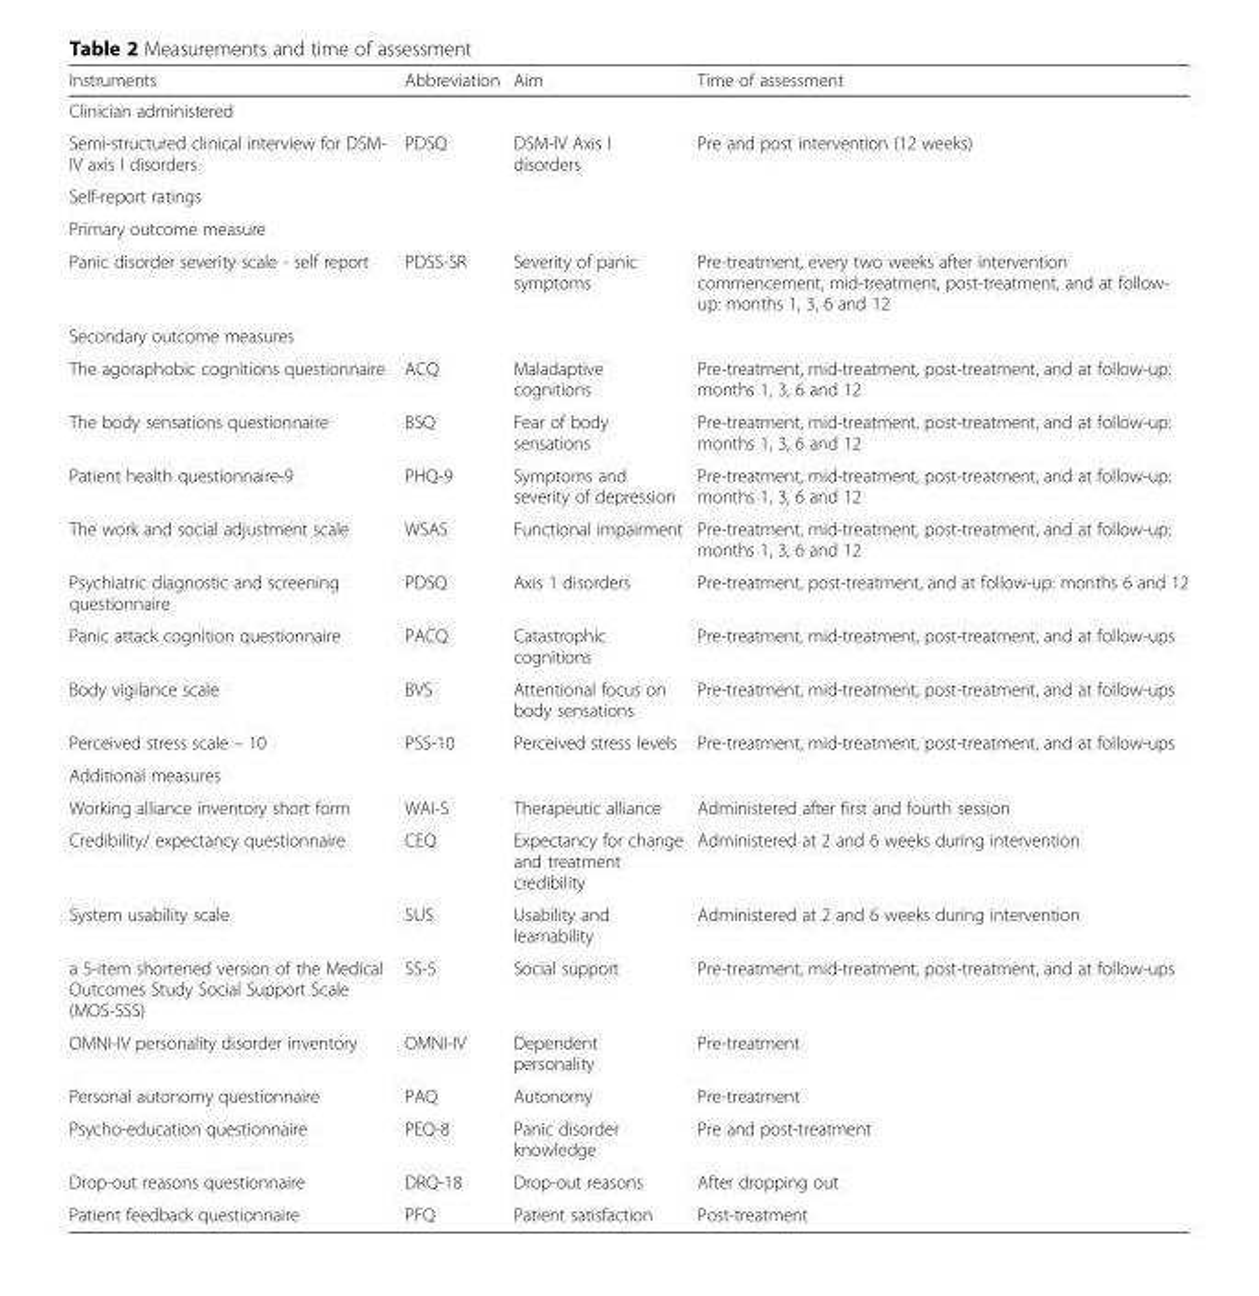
<table><thead><tr><td>Instruments</td><td>Abbreviation</td><td>Aim</td><td>Time of assessment</td></tr></thead><tbody><tr><td colspan="4">Clinician administered</td></tr><tr><td>Semi-structured clinical interview for DSM- IV axis I disorders</td><td>PDSQ</td><td>DSM-IV Axis I disorders</td><td>Pre and post intervention (12 weeks)</td></tr><tr><td colspan="4">Self-report ratings</td></tr><tr><td colspan="4">Primary outcome measure</td></tr><tr><td>Panic disorder severity scale - self report</td><td>PDSS-SR</td><td>Severity of panic symptoms</td><td>Pre-treatment, every two weeks after intervention commencement, mid-treatment, post-treatment, and at follow- up: months 1, 3, 6 and 12</td></tr><tr><td colspan="4">Secondary outcome measures</td></tr><tr><td>The agoraphobic cognitions questionnaire</td><td>ACQ</td><td>Maladaptive cognitions</td><td>Pre-treatment, mid-treatment, post-treatment, and at follow-up: months 1, 3, 6 and 12</td></tr><tr><td>The body sensations questionnaire</td><td>BSQ</td><td>Fear of body sensations</td><td>Pre-treatment, mid-treatment, post-treatment, and at follow-up: months 1, 3, 6 and 12</td></tr><tr><td>Patient health questionnaire-9</td><td>PHQ-9</td><td>Symptoms and severity of depression</td><td>Pre-treatment, mid-treatment, post-treatment, and at follow-up: months 1, 3, 6 and 12</td></tr><tr><td>The work and social adjustment scale</td><td>WSAS</td><td>Functional impairment</td><td>Pre-treatment, mid-treatment, post-treatment, and at follow-up: months 1, 3, 6 and 12</td></tr><tr><td>Psychiatric diagnostic and screening questionnaire</td><td>PDSQ</td><td>Axis 1 disorders</td><td>Pre-treatment, post-treatment, and at follow-up: months 6 and 12</td></tr><tr><td>Panic attack cognition questionnaire</td><td>PACQ</td><td>Catastrophic cognitions</td><td>Pre-treatment, mid-treatment, post-treatment, and at follow-ups</td></tr><tr><td>Body vigilance scale</td><td>BVS</td><td>Attentional focus on body sensations</td><td>Pre-treatment, mid-treatment, post-treatment, and at follow-ups</td></tr><tr><td>Perceived stress scale – 10</td><td>PSS-10</td><td>Perceived stress levels</td><td>Pre-treatment, mid-treatment, post-treatment, and at follow-ups</td></tr><tr><td colspan="4">Additional measures</td></tr><tr><td>Working alliance inventory short form</td><td>WAI-S</td><td>Therapeutic alliance</td><td>Administered after first and fourth session</td></tr><tr><td>Credibility/ expectancy questionnaire</td><td>CEQ</td><td>Expectancy for change and treatment credibility</td><td>Administered at 2 and 6 weeks during intervention</td></tr><tr><td>System usability scale</td><td>SUS</td><td>Usability and learnability</td><td>Administered at 2 and 6 weeks during intervention</td></tr><tr><td>a 5-item shortened version of the Medical Outcomes Study Social Support Scale (MOS-SSS)</td><td>SS-5</td><td>Social support</td><td>Pre-treatment, mid-treatment, post-treatment, and at follow-ups</td></tr><tr><td>OMNI-IV personality disorder inventory</td><td>OMNI-IV</td><td>Dependent personality</td><td>Pre-treatment</td></tr><tr><td>Personal autonomy questionnaire</td><td>PAQ</td><td>Autonomy</td><td>Pre-treatment</td></tr><tr><td>Psycho-education questionnaire</td><td>PEQ-8</td><td>Panic disorder knowledge</td><td>Pre and post-treatment</td></tr><tr><td>Drop-out reasons questionnaire</td><td>DRQ-18</td><td>Drop-out reasons</td><td>After dropping out</td></tr><tr><td>Patient feedback questionnaire</td><td>PFQ</td><td>Patient satisfaction</td><td>Post-treatment</td></tr></tbody></table>